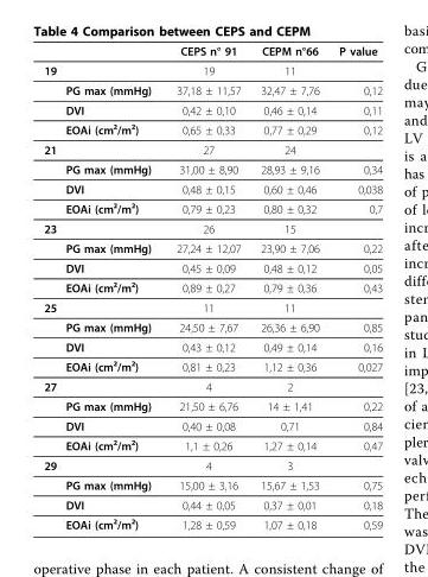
<table><thead><tr><td></td><td></td><td>CEPS n° 91</td><td>CEPM n°66</td><td>P value</td></tr></thead><tbody><tr><td rowspan="4">19</td><td></td><td>19</td><td>11</td><td></td></tr><tr><td>PG max (mmHg)</td><td>37,18 ± 11,57</td><td>32,47 ± 7,76</td><td>0,12</td></tr><tr><td>DVI</td><td>0,42 ± 0,10</td><td>0,46 ± 0,14</td><td>0,11</td></tr><tr><td>EOAi (cm²/m²)</td><td>0,65 ± 0,33</td><td>0,77 ± 0,29</td><td>0,12</td></tr><tr><td rowspan="4">21</td><td></td><td>27</td><td>24</td><td></td></tr><tr><td>PG max (mmHg)</td><td>31,00 ± 8,90</td><td>28,93 ± 9,16</td><td>0,34</td></tr><tr><td>DVI</td><td>0,48 ± 0,15</td><td>0,60 ± 0,46</td><td>0,038</td></tr><tr><td>EOAi (cm²/m²)</td><td>0,79 ± 0,23</td><td>0,80 ± 0,32</td><td>0,7</td></tr><tr><td rowspan="4">23</td><td></td><td>26</td><td>15</td><td></td></tr><tr><td>PG max (mmHg)</td><td>27,24 ± 12,07</td><td>23,90 ± 7,06</td><td>0,22</td></tr><tr><td>DVI</td><td>0,45 ± 0,09</td><td>0,48 ± 0,12</td><td>0,05</td></tr><tr><td>EOAi (cm²/m²)</td><td>0,89 ± 0,27</td><td>0,79 ± 0,36</td><td>0,43</td></tr><tr><td rowspan="4">25</td><td></td><td>11</td><td>11</td><td></td></tr><tr><td>PG max (mmHg)</td><td>24,50 ± 7,67</td><td>26,36 ± 6,90</td><td>0,85</td></tr><tr><td>DVI</td><td>0,43 ± 0,12</td><td>0,49 ± 0,14</td><td>0,16</td></tr><tr><td>EOAi (cm²/m²)</td><td>0,81 ± 0,23</td><td>1,12 ± 0,36</td><td>0,027</td></tr><tr><td rowspan="4">27</td><td></td><td>4</td><td>2</td><td></td></tr><tr><td>PG max (mmHg)</td><td>21,50 ± 6,76</td><td>14 ± 1,41</td><td>0,22</td></tr><tr><td>DVI</td><td>0,40 ± 0,08</td><td>0,71</td><td>0,84</td></tr><tr><td>EOAi (cm²/m²)</td><td>1,1 ± 0,26</td><td>1,27 ± 0,14</td><td>0,47</td></tr><tr><td rowspan="4">29</td><td></td><td>4</td><td>3</td><td></td></tr><tr><td>PG max (mmHg)</td><td>15,00 ± 3,16</td><td>15,67 ± 1,53</td><td>0,75</td></tr><tr><td>DVI</td><td>0,44 ± 0,05</td><td>0,37 ± 0,01</td><td>0,18</td></tr><tr><td>EOAi (cm²/m²)</td><td>1,28 ± 0,59</td><td>1,07 ± 0,18</td><td>0,59</td></tr></tbody></table>